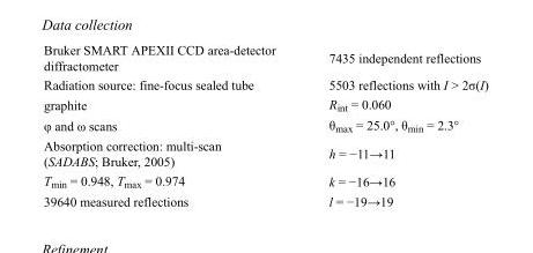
<table><tbody><tr><td>Bruker SMART APEXII CCD area-detector diffractometer</td><td>7435 independent reflections</td></tr><tr><td>Radiation source: fine-focus sealed tube</td><td>5503 reflections with I &gt; 2σ(I)</td></tr><tr><td>graphite</td><td>R<sub>int</sub> = 0.060</td></tr><tr><td>φ and ω scans</td><td>θ<sub>max</sub> = 25.0°, θ<sub>min</sub> = 2.3°</td></tr><tr><td>Absorption correction: multi-scan (SADABS; Bruker, 2005)</td><td>h = −11→11</td></tr><tr><td>T<sub>min</sub> = 0.948, T<sub>max</sub> = 0.974</td><td>k = −16→16</td></tr><tr><td>39640 measured reflections</td><td>l = −19→19</td></tr></tbody></table>